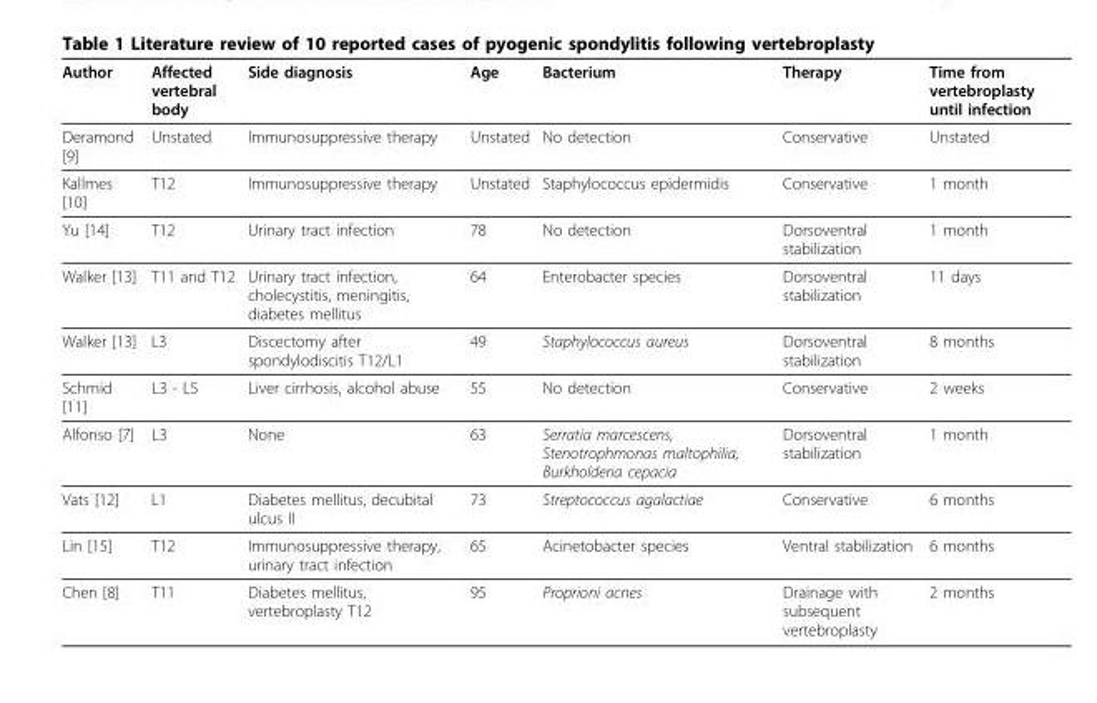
<table><thead><tr><td>Author</td><td>Affected vertebral body</td><td>Side diagnosis</td><td>Age</td><td>Bacterium</td><td>Therapy</td><td>Time from vertebroplasty until infection</td></tr></thead><tbody><tr><td>Deramond [9]</td><td>Unstated</td><td>Immunosuppressive therapy</td><td>Unstated</td><td>No detection</td><td>Conservative</td><td>Unstated</td></tr><tr><td>Kallmes [10]</td><td>T12</td><td>Immunosuppressive therapy</td><td>Unstated</td><td>Staphylococcus epidermidis</td><td>Conservative</td><td>1 month</td></tr><tr><td>Yu [14]</td><td>T12</td><td>Urinary tract infection</td><td>78</td><td>No detection</td><td>Dorsoventral stabilization</td><td>1 month</td></tr><tr><td>Walker [13]</td><td>T11 and T12</td><td>Urinary tract infection, cholecystitis, meningitis, diabetes mellitus</td><td>64</td><td>Enterobacter species</td><td>Dorsoventral stabilization</td><td>11 days</td></tr><tr><td>Walker [13]</td><td>L3</td><td>Discectomy after spondylodiscitis T12/L1</td><td>49</td><td>Staphylococcus aureus</td><td>Dorsoventral stabilization</td><td>8 months</td></tr><tr><td>Schmid [11]</td><td>L3 - L5</td><td>Liver cirrhosis, alcohol abuse</td><td>55</td><td>No detection</td><td>Conservative</td><td>2 weeks</td></tr><tr><td>Alfonso [7]</td><td>L3</td><td>None</td><td>63</td><td>Serratia marcescens, Stenotrophmonas maltophilia, Burkholderia cepacia</td><td>Dorsoventral stabilization</td><td>1 month</td></tr><tr><td>Vats [12]</td><td>L1</td><td>Diabetes mellitus, decubital ulcus II</td><td>73</td><td>Streptococcus agalactiae</td><td>Conservative</td><td>6 months</td></tr><tr><td>Lin [15]</td><td>T12</td><td>Immunosuppressive therapy, urinary tract infection</td><td>65</td><td>Acinetobacter species</td><td>Ventral stabilization</td><td>6 months</td></tr><tr><td>Chen [8]</td><td>T11</td><td>Diabetes mellitus, vertebroplasty T12</td><td>95</td><td>Proprioni acnes</td><td>Drainage with subsequent vertebroplasty</td><td>2 months</td></tr></tbody></table>